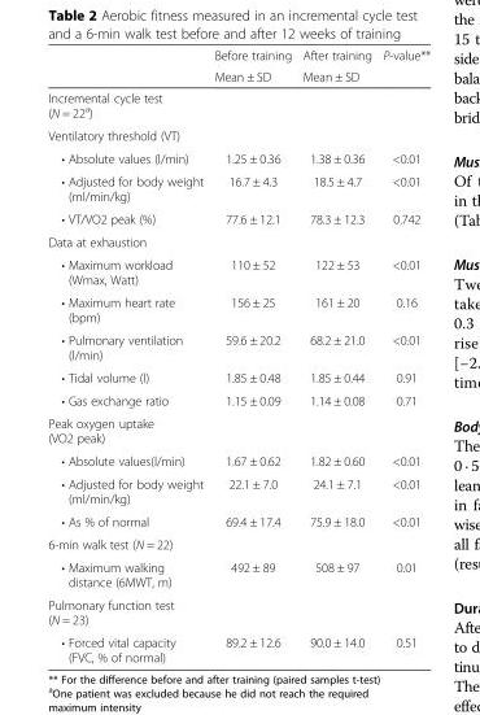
<table><thead><tr><td rowspan="2"></td><td rowspan="2">Before training Mean ± SD</td><td rowspan="2">After training Mean ± SD</td><td rowspan="2">P-value**</td></tr><tr></tr></thead><tbody><tr><td colspan="4">Incremental cycle test (N = 22<sup>a</sup>)</td></tr><tr><td colspan="4">Ventilatory threshold (VT)</td></tr><tr><td>• Absolute values (l/min)</td><td>1.25 ± 0.36</td><td>1.38 ± 0.36</td><td>&lt;0.01</td></tr><tr><td>• Adjusted for body weight (ml/min/kg)</td><td>16.7 ± 4.3</td><td>18.5 ± 4.7</td><td>&lt;0.01</td></tr><tr><td>• VT/VO2 peak (%)</td><td>77.6 ± 12.1</td><td>78.3 ± 12.3</td><td>0.742</td></tr><tr><td colspan="4">Data at exhaustion</td></tr><tr><td>• Maximum workload (Wmax, Watt)</td><td>110 ± 52</td><td>122 ± 53</td><td>&lt;0.01</td></tr><tr><td>• Maximum heart rate (bpm)</td><td>156 ± 25</td><td>161 ± 20</td><td>0.16</td></tr><tr><td>• Pulmonary ventilation (l/min)</td><td>59.6 ± 20.2</td><td>68.2 ± 21.0</td><td>&lt;0.01</td></tr><tr><td>• Tidal volume (l)</td><td>1.85 ± 0.48</td><td>1.85 ± 0.44</td><td>0.91</td></tr><tr><td>• Gas exchange ratio</td><td>1.15 ± 0.09</td><td>1.14 ± 0.08</td><td>0.71</td></tr><tr><td colspan="4">Peak oxygen uptake (VO2 peak)</td></tr><tr><td>• Absolute values(l/min)</td><td>1.67 ± 0.62</td><td>1.82 ± 0.60</td><td>&lt;0.01</td></tr><tr><td>• Adjusted for body weight (ml/min/kg)</td><td>22.1 ± 7.0</td><td>24.1 ± 7.1</td><td>&lt;0.01</td></tr><tr><td>• As % of normal</td><td>69.4 ± 17.4</td><td>75.9 ± 18.0</td><td>&lt;0.01</td></tr><tr><td colspan="4">6-min walk test (N = 22)</td></tr><tr><td>• Maximum walking distance (6MWT, m)</td><td>492 ± 89</td><td>508 ± 97</td><td>0.01</td></tr><tr><td colspan="4">Pulmonary function test (N = 23)</td></tr><tr><td>• Forced vital capacity (FVC, % of normal)</td><td>89.2 ± 12.6</td><td>90.0 ± 14.0</td><td>0.51</td></tr></tbody></table>